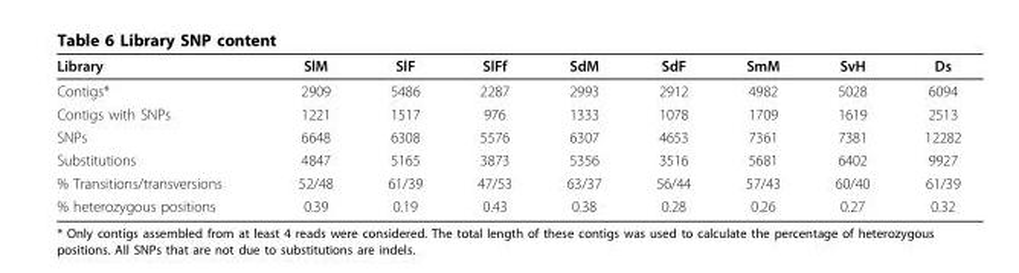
<table><thead><tr><td>Library</td><td>SlM</td><td>SlF</td><td>SlFf</td><td>SdM</td><td>SdF</td><td>SmM</td><td>SvH</td><td>Ds</td></tr></thead><tbody><tr><td>Contigs*</td><td>2909</td><td>5486</td><td>2287</td><td>2993</td><td>2912</td><td>4982</td><td>5028</td><td>6094</td></tr><tr><td>Contigs with SNPs</td><td>1221</td><td>1517</td><td>976</td><td>1333</td><td>1078</td><td>1709</td><td>1619</td><td>2513</td></tr><tr><td>SNPs</td><td>6648</td><td>6308</td><td>5576</td><td>6307</td><td>4653</td><td>7361</td><td>7381</td><td>12282</td></tr><tr><td>Substitutions</td><td>4847</td><td>5165</td><td>3873</td><td>5356</td><td>3516</td><td>5681</td><td>6402</td><td>9927</td></tr><tr><td>% Transitions/transversions</td><td>52/48</td><td>61/39</td><td>47/53</td><td>63/37</td><td>56/44</td><td>57/43</td><td>60/40</td><td>61/39</td></tr><tr><td>% heterozygous positions</td><td>0.39</td><td>0.19</td><td>0.43</td><td>0.38</td><td>0.28</td><td>0.26</td><td>0.27</td><td>0.32</td></tr></tbody></table>